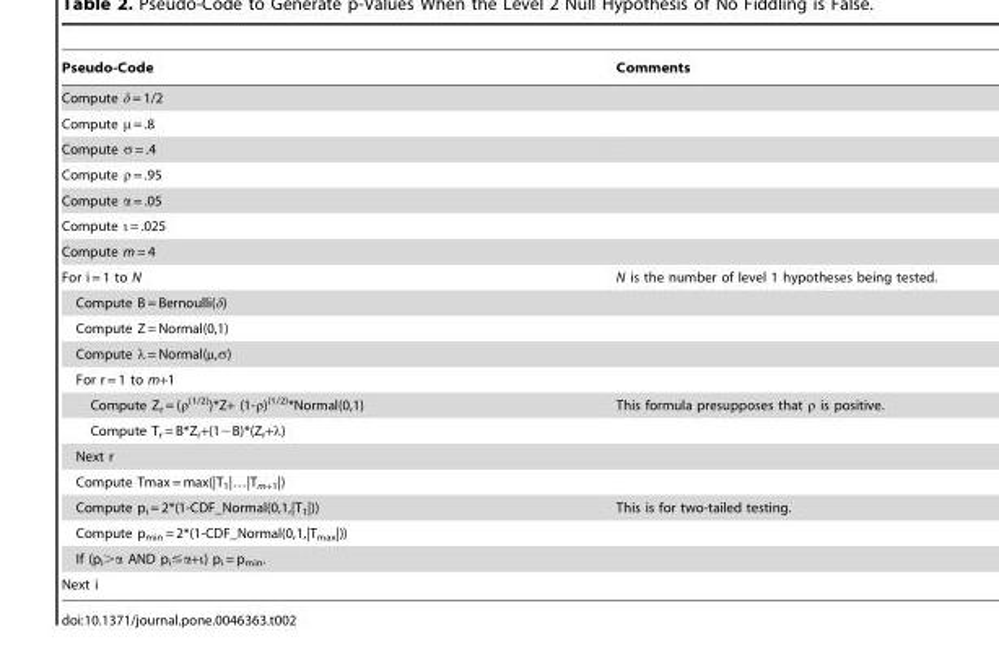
<table><thead><tr><td>Pseudo-Code</td><td>Comments</td></tr></thead><tbody><tr><td colspan="2">Compute d = 1/2</td></tr><tr><td colspan="2">Compute μ = .8</td></tr><tr><td colspan="2">Compute σ = .4</td></tr><tr><td colspan="2">Compute ρ = .95</td></tr><tr><td colspan="2">Compute α = .05</td></tr><tr><td colspan="2">Compute ι = .025</td></tr><tr><td colspan="2">Compute m = 4</td></tr><tr><td>For i = 1 to N</td><td>N is the number of level 1 hypotheses being tested.</td></tr><tr><td colspan="2">Compute B = Bernoulli(d)</td></tr><tr><td colspan="2">Compute Z = Normal(0,1)</td></tr><tr><td colspan="2">Compute λ = Normal(μ,σ)</td></tr><tr><td colspan="2">For r = 1 to m+1</td></tr><tr><td>Compute Z<sub>r</sub> = (ρ<sup>(1/2)</sup>)*Z+ (1-ρ)<sup>(1/2)</sup>*Normal(0,1)</td><td>This formula presupposes that ρ is positive.</td></tr><tr><td colspan="2">Compute T<sub>r</sub> = B*Z<sub>r</sub>+(1−B)*(Z<sub>r</sub>+λ)</td></tr><tr><td colspan="2">Next r</td></tr><tr><td colspan="2">Compute Tmax = max(|T<sub>1</sub>|…|T<sub>m+1</sub>|)</td></tr><tr><td>Compute p<sub>i</sub> = 2*(1-CDF_Normal(0,1,|T<sub>1</sub>|))</td><td>This is for two-tailed testing.</td></tr><tr><td colspan="2">Compute p<sub>min</sub> = 2*(1-CDF_Normal(0,1,|T<sub>max</sub>|))</td></tr><tr><td colspan="2">If (p<sub>i</sub>&gt;α AND p<sub>i</sub>≤α+ι) p<sub>i</sub> = p<sub>min</sub>.</td></tr><tr><td>Next i</td><td></td></tr></tbody></table>